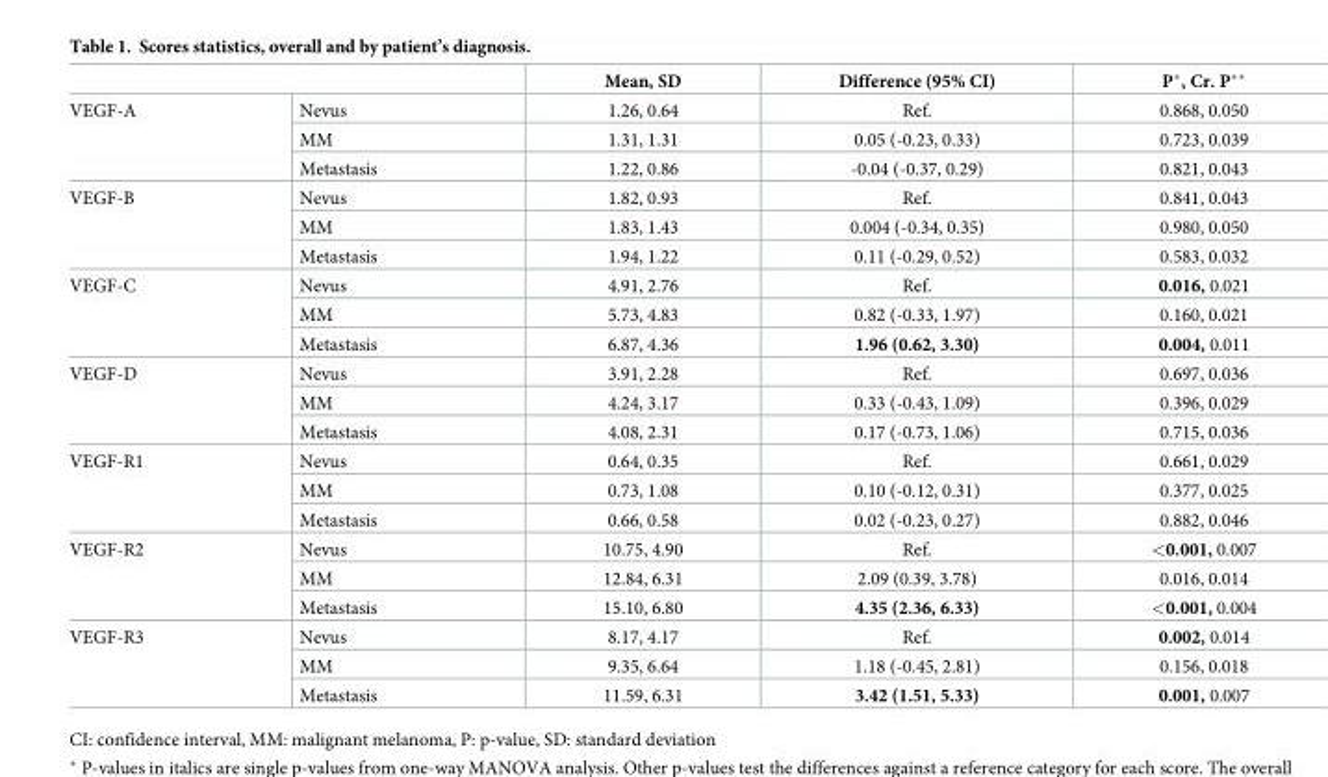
<table><thead><tr><td></td><td></td><td>Mean, SD</td><td>Difference (95% CI)</td><td>P*, Cr. P**</td></tr></thead><tbody><tr><td rowspan="3">VEGF-A</td><td>Nevus</td><td>1.26, 0.64</td><td>Ref.</td><td>0.868, 0.050</td></tr><tr><td>MM</td><td>1.31, 1.31</td><td>0.05 (-0.23, 0.33)</td><td>0.723, 0.039</td></tr><tr><td>Metastasis</td><td>1.22, 0.86</td><td>-0.04 (-0.37, 0.29)</td><td>0.821, 0.043</td></tr><tr><td rowspan="3">VEGF-B</td><td>Nevus</td><td>1.82, 0.93</td><td>Ref.</td><td>0.841, 0.043</td></tr><tr><td>MM</td><td>1.83, 1.43</td><td>0.004 (-0.34, 0.35)</td><td>0.980, 0.050</td></tr><tr><td>Metastasis</td><td>1.94, 1.22</td><td>0.11 (-0.29, 0.52)</td><td>0.583, 0.032</td></tr><tr><td rowspan="3">VEGF-C</td><td>Nevus</td><td>4.91, 2.76</td><td>Ref.</td><td>0.016, 0.021</td></tr><tr><td>MM</td><td>5.73, 4.83</td><td>0.82 (-0.33, 1.97)</td><td>0.160, 0.021</td></tr><tr><td>Metastasis</td><td>6.87, 4.36</td><td>1.96 (0.62, 3.30)</td><td>0.004, 0.011</td></tr><tr><td rowspan="3">VEGF-D</td><td>Nevus</td><td>3.91, 2.28</td><td>Ref.</td><td>0.697, 0.036</td></tr><tr><td>MM</td><td>4.24, 3.17</td><td>0.33 (-0.43, 1.09)</td><td>0.396, 0.029</td></tr><tr><td>Metastasis</td><td>4.08, 2.31</td><td>0.17 (-0.73, 1.06)</td><td>0.715, 0.036</td></tr><tr><td rowspan="3">VEGF-R1</td><td>Nevus</td><td>0.64, 0.35</td><td>Ref.</td><td>0.661, 0.029</td></tr><tr><td>MM</td><td>0.73, 1.08</td><td>0.10 (-0.12, 0.31)</td><td>0.377, 0.025</td></tr><tr><td>Metastasis</td><td>0.66, 0.58</td><td>0.02 (-0.23, 0.27)</td><td>0.882, 0.046</td></tr><tr><td rowspan="3">VEGF-R2</td><td>Nevus</td><td>10.75, 4.90</td><td>Ref.</td><td>&lt;0.001, 0.007</td></tr><tr><td>MM</td><td>12.84, 6.31</td><td>2.09 (0.39, 3.78)</td><td>0.016, 0.014</td></tr><tr><td>Metastasis</td><td>15.10, 6.80</td><td>4.35 (2.36, 6.33)</td><td>&lt;0.001, 0.004</td></tr><tr><td rowspan="3">VEGF-R3</td><td>Nevus</td><td>8.17, 4.17</td><td>Ref.</td><td>0.002, 0.014</td></tr><tr><td>MM</td><td>9.35, 6.64</td><td>1.18 (-0.45, 2.81)</td><td>0.156, 0.018</td></tr><tr><td>Metastasis</td><td>11.59, 6.31</td><td>3.42 (1.51, 5.33)</td><td>0.001, 0.007</td></tr></tbody></table>